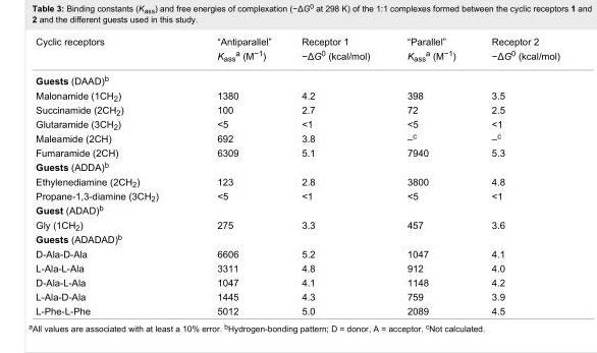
<table><tbody><tr><td rowspan="2">Cyclic receptors</td><td>“Antiparallel”</td><td>Receptor 1</td><td>“Parallel”</td><td>Receptor 2</td></tr><tr><td>K<sub>ass</sub><sup>a</sup> (M<sup>−1</sup>)</td><td>−ΔG<sup>0</sup> (kcal/mol)</td><td>K<sub>ass</sub><sup>a</sup> (M<sup>−1</sup>)</td><td>−ΔG<sup>0</sup> (kcal/mol)</td></tr><tr><td colspan="5">Guests (DAAD)<sup>b</sup></td></tr><tr><td>Malonamide (1CH<sub>2</sub>)</td><td>1380</td><td>4.2</td><td>398</td><td>3.5</td></tr><tr><td>Succinamide (2CH<sub>2</sub>)</td><td>100</td><td>2.7</td><td>72</td><td>2.5</td></tr><tr><td>Glutaramide (3CH<sub>2</sub>)</td><td>&lt;5</td><td>&lt;1</td><td>&lt;5</td><td>&lt;1</td></tr><tr><td>Maleamide (2CH)</td><td>692</td><td>3.8</td><td>–<sup>c</sup></td><td>–<sup>c</sup></td></tr><tr><td>Fumaramide (2CH)</td><td>6309</td><td>5.1</td><td>7940</td><td>5.3</td></tr><tr><td colspan="5">Guests (ADDA)<sup>b</sup></td></tr><tr><td>Ethylenediamine (2CH<sub>2</sub>)</td><td>123</td><td>2.8</td><td>3800</td><td>4.8</td></tr><tr><td>Propane-1,3-diamine (3CH<sub>2</sub>)</td><td>&lt;5</td><td>&lt;1</td><td>&lt;5</td><td>&lt;1</td></tr><tr><td colspan="5">Guest (ADAD)<sup>b</sup></td></tr><tr><td>Gly (1CH<sub>2</sub>)</td><td>275</td><td>3.3</td><td>457</td><td>3.6</td></tr><tr><td colspan="5">Guests (ADADAD)<sup>b</sup></td></tr><tr><td>D-Ala-D-Ala</td><td>6606</td><td>5.2</td><td>1047</td><td>4.1</td></tr><tr><td>L-Ala-L-Ala</td><td>3311</td><td>4.8</td><td>912</td><td>4.0</td></tr><tr><td>D-Ala-L-Ala</td><td>1047</td><td>4.1</td><td>1148</td><td>4.2</td></tr><tr><td>L-Ala-D-Ala</td><td>1445</td><td>4.3</td><td>759</td><td>3.9</td></tr><tr><td>L-Phe-L-Phe</td><td>5012</td><td>5.0</td><td>2089</td><td>4.5</td></tr></tbody></table>